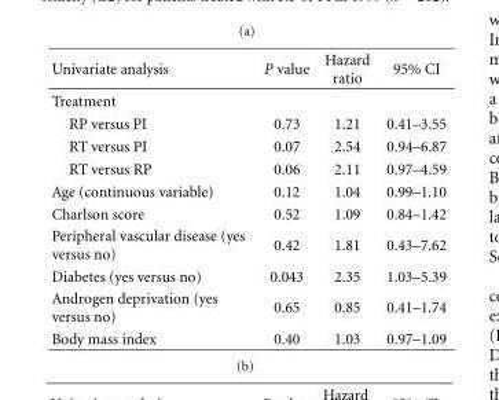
<table><thead><tr><td>Univariate analysis</td><td>P value</td><td>Hazard ratio</td><td>95% CI</td></tr></thead><tbody><tr><td colspan="4">Treatment</td></tr><tr><td>RP versus PI</td><td>0.73</td><td>1.21</td><td>0.41–3.55</td></tr><tr><td>RT versus PI</td><td>0.07</td><td>2.54</td><td>0.94–6.87</td></tr><tr><td>RT versus RP</td><td>0.06</td><td>2.11</td><td>0.97–4.59</td></tr><tr><td>Age (continuous variable)</td><td>0.12</td><td>1.04</td><td>0.99–1.10</td></tr><tr><td>Charlson score</td><td>0.52</td><td>1.09</td><td>0.84–1.42</td></tr><tr><td>Peripheral vascular disease (yes versus no)</td><td>0.42</td><td>1.81</td><td>0.43–7.62</td></tr><tr><td>Diabetes (yes versus no)</td><td>0.043</td><td>2.35</td><td>1.03–5.39</td></tr><tr><td>Androgen deprivation (yes versus no)</td><td>0.65</td><td>0.85</td><td>0.41–1.74</td></tr><tr><td>Body mass index</td><td>0.40</td><td>1.03</td><td>0.97–1.09</td></tr></tbody></table>